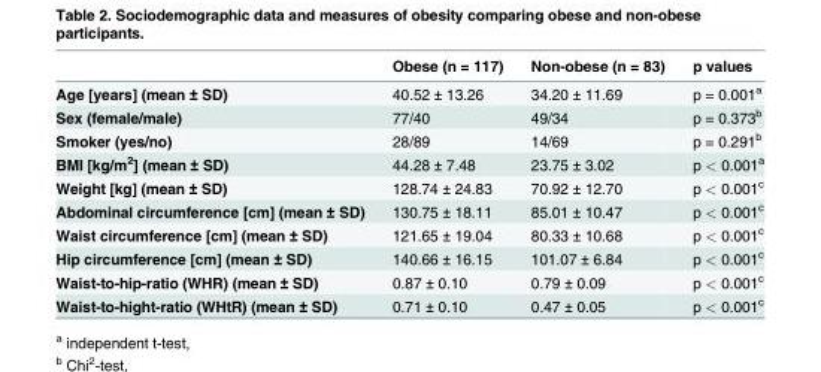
<table><thead><tr><td></td><td>Obese (n = 117)</td><td>Non-obese (n = 83)</td><td>p values</td></tr></thead><tbody><tr><td>Age [years] (mean ± SD)</td><td>40.52 ± 13.26</td><td>34.20 ± 11.69</td><td>p = 0.001<sup>a</sup></td></tr><tr><td>Sex (female/male)</td><td>77/40</td><td>49/34</td><td>p = 0.373<sup>b</sup></td></tr><tr><td>Smoker (yes/no)</td><td>28/89</td><td>14/69</td><td>p = 0.291<sup>b</sup></td></tr><tr><td>BMI [kg/m<sup>2</sup>] (mean ± SD)</td><td>44.28 ± 7.48</td><td>23.75 ± 3.02</td><td>p &lt; 0.001<sup>a</sup></td></tr><tr><td>Weight [kg] (mean ± SD)</td><td>128.74 ± 24.83</td><td>70.92 ± 12.70</td><td>p &lt; 0.001<sup>c</sup></td></tr><tr><td>Abdominal circumference [cm] (mean ± SD)</td><td>130.75 ± 18.11</td><td>85.01 ± 10.47</td><td>p &lt; 0.001<sup>c</sup></td></tr><tr><td>Waist circumference [cm] (mean ± SD)</td><td>121.65 ± 19.04</td><td>80.33 ± 10.68</td><td>p &lt; 0.001<sup>c</sup></td></tr><tr><td>Hip circumference [cm] (mean ± SD)</td><td>140.66 ± 16.15</td><td>101.07 ± 6.84</td><td>p &lt; 0.001<sup>c</sup></td></tr><tr><td>Waist-to-hip-ratio (WHR) (mean ± SD)</td><td>0.87 ± 0.10</td><td>0.79 ± 0.09</td><td>p &lt; 0.001<sup>c</sup></td></tr><tr><td>Waist-to-hight-ratio (WHtR) (mean ± SD)</td><td>0.71 ± 0.10</td><td>0.47 ± 0.05</td><td>p &lt; 0.001<sup>c</sup></td></tr></tbody></table>